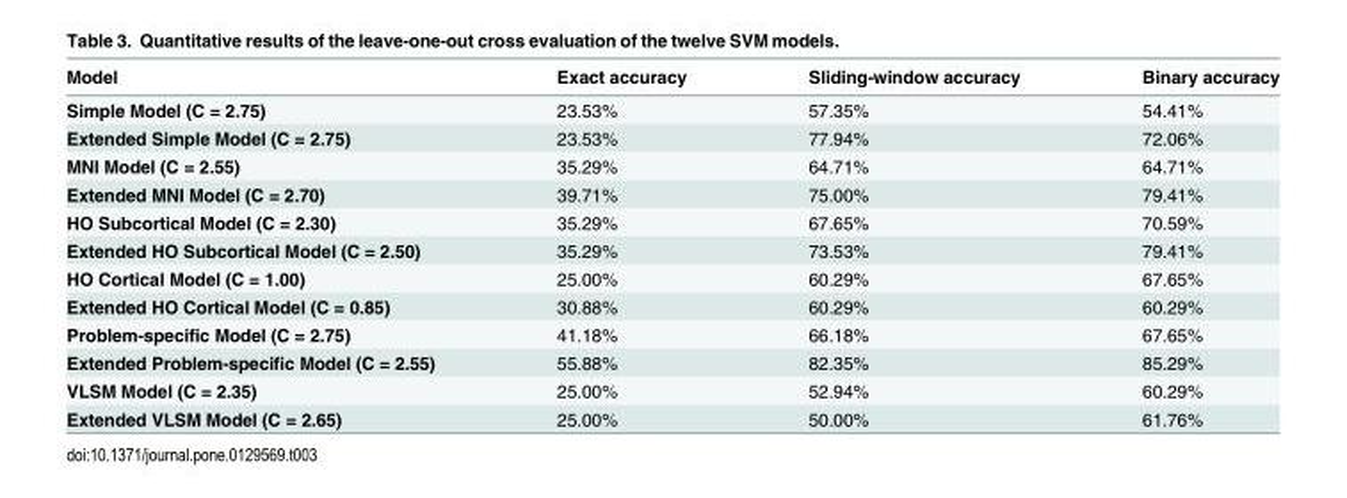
<table><thead><tr><td>Model</td><td>Exact accuracy</td><td>Sliding-window accuracy</td><td>Binary accuracy</td></tr></thead><tbody><tr><td>Simple Model (C = 2.75)</td><td>23.53%</td><td>57.35%</td><td>54.41%</td></tr><tr><td>Extended Simple Model (C = 2.75)</td><td>23.53%</td><td>77.94%</td><td>72.06%</td></tr><tr><td>MNI Model (C = 2.55)</td><td>35.29%</td><td>64.71%</td><td>64.71%</td></tr><tr><td>Extended MNI Model (C = 2.70)</td><td>39.71%</td><td>75.00%</td><td>79.41%</td></tr><tr><td>HO Subcortical Model (C = 2.30)</td><td>35.29%</td><td>67.65%</td><td>70.59%</td></tr><tr><td>Extended HO Subcortical Model (C = 2.50)</td><td>35.29%</td><td>73.53%</td><td>79.41%</td></tr><tr><td>HO Cortical Model (C = 1.00)</td><td>25.00%</td><td>60.29%</td><td>67.65%</td></tr><tr><td>Extended HO Cortical Model (C = 0.85)</td><td>30.88%</td><td>60.29%</td><td>60.29%</td></tr><tr><td>Problem-specific Model (C = 2.75)</td><td>41.18%</td><td>66.18%</td><td>67.65%</td></tr><tr><td>Extended Problem-specific Model (C = 2.55)</td><td>55.88%</td><td>82.35%</td><td>85.29%</td></tr><tr><td>VLSM Model (C = 2.35)</td><td>25.00%</td><td>52.94%</td><td>60.29%</td></tr><tr><td>Extended VLSM Model (C = 2.65)</td><td>25.00%</td><td>50.00%</td><td>61.76%</td></tr></tbody></table>